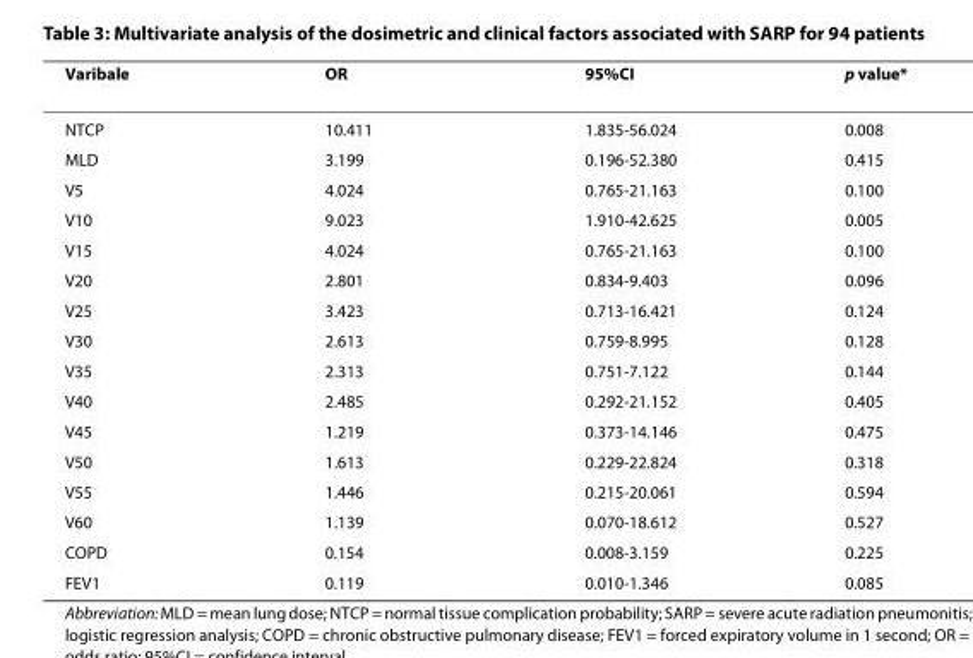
<table><thead><tr><td>Varibale</td><td>OR</td><td>95%CI</td><td>p value*</td></tr></thead><tbody><tr><td>NTCP</td><td>10.411</td><td>1.835-56.024</td><td>0.008</td></tr><tr><td>MLD</td><td>3.199</td><td>0.196-52.380</td><td>0.415</td></tr><tr><td>V5</td><td>4.024</td><td>0.765-21.163</td><td>0.100</td></tr><tr><td>V10</td><td>9.023</td><td>1.910-42.625</td><td>0.005</td></tr><tr><td>V15</td><td>4.024</td><td>0.765-21.163</td><td>0.100</td></tr><tr><td>V20</td><td>2.801</td><td>0.834-9.403</td><td>0.096</td></tr><tr><td>V25</td><td>3.423</td><td>0.713-16.421</td><td>0.124</td></tr><tr><td>V30</td><td>2.613</td><td>0.759-8.995</td><td>0.128</td></tr><tr><td>V35</td><td>2.313</td><td>0.751-7.122</td><td>0.144</td></tr><tr><td>V40</td><td>2.485</td><td>0.292-21.152</td><td>0.405</td></tr><tr><td>V45</td><td>1.219</td><td>0.373-14.146</td><td>0.475</td></tr><tr><td>V50</td><td>1.613</td><td>0.229-22.824</td><td>0.318</td></tr><tr><td>V55</td><td>1.446</td><td>0.215-20.061</td><td>0.594</td></tr><tr><td>V60</td><td>1.139</td><td>0.070-18.612</td><td>0.527</td></tr><tr><td>COPD</td><td>0.154</td><td>0.008-3.159</td><td>0.225</td></tr><tr><td>FEV1</td><td>0.119</td><td>0.010-1.346</td><td>0.085</td></tr></tbody></table>